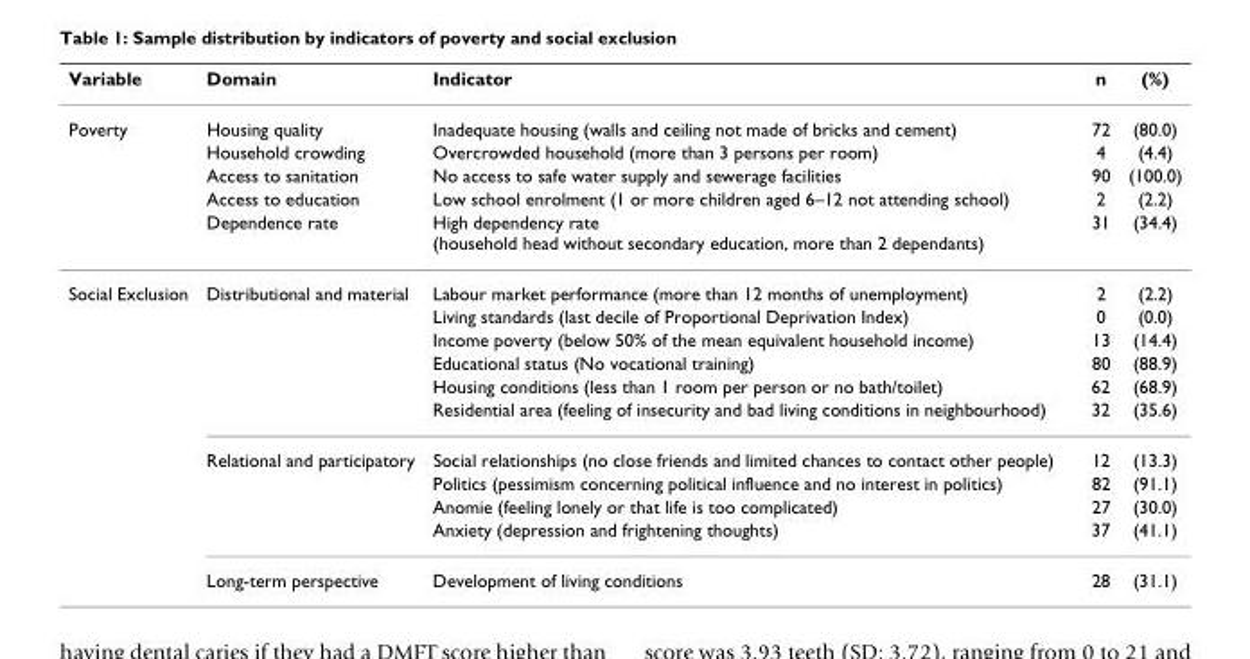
<table><thead><tr><td>Variable</td><td>Domain</td><td>Indicator</td><td>n</td><td>(%)</td></tr></thead><tbody><tr><td rowspan="5">Poverty</td><td>Housing quality</td><td>Inadequate housing (walls and ceiling not made of bricks and cement)</td><td>72</td><td>(80.0)</td></tr><tr><td>Household crowding</td><td>Overcrowded household (more than 3 persons per room)</td><td>4</td><td>(4.4)</td></tr><tr><td>Access to sanitation</td><td>No access to safe water supply and sewerage facilities</td><td>90</td><td>(100.0)</td></tr><tr><td>Access to education</td><td>Low school enrolment (1 or more children aged 6–12 not attending school)</td><td>2</td><td>(2.2)</td></tr><tr><td>Dependence rate</td><td>High dependency rate (household head without secondary education, more than 2 dependants)</td><td>31</td><td>(34.4)</td></tr><tr><td rowspan="11">Social Exclusion</td><td>Distributional and material</td><td>Labour market performance (more than 12 months of unemployment)</td><td>2</td><td>(2.2)</td></tr><tr><td></td><td>Living standards (last decile of Proportional Deprivation Index)</td><td>0</td><td>(0.0)</td></tr><tr><td></td><td>Income poverty (below 50% of the mean equivalent household income)</td><td>13</td><td>(14.4)</td></tr><tr><td></td><td>Educational status (No vocational training)</td><td>80</td><td>(88.9)</td></tr><tr><td></td><td>Housing conditions (less than 1 room per person or no bath/toilet)</td><td>62</td><td>(68.9)</td></tr><tr><td></td><td>Residential area (feeling of insecurity and bad living conditions in neighbourhood)</td><td>32</td><td>(35.6)</td></tr><tr><td>Relational and participatory</td><td>Social relationships (no close friends and limited chances to contact other people)</td><td>12</td><td>(13.3)</td></tr><tr><td></td><td>Politics (pessimism concerning political influence and no interest in politics)</td><td>82</td><td>(91.1)</td></tr><tr><td></td><td>Anomie (feeling lonely or that life is too complicated)</td><td>27</td><td>(30.0)</td></tr><tr><td></td><td>Anxiety (depression and frightening thoughts)</td><td>37</td><td>(41.1)</td></tr><tr><td>Long-term perspective</td><td>Development of living conditions</td><td>28</td><td>(31.1)</td></tr></tbody></table>